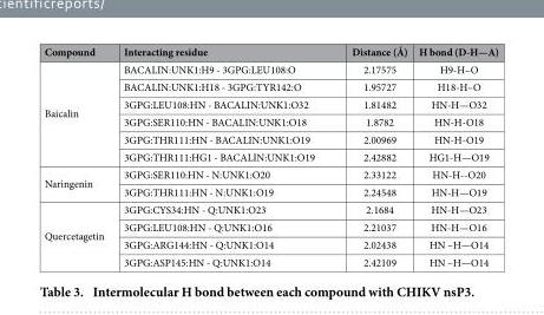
<table><thead><tr><td>Compound</td><td>Interacting residue</td><td>Distance (Å)</td><td>H bond (D-H—A)</td></tr></thead><tbody><tr><td rowspan="6">Baicalin</td><td>BACALIN:UNK1:H9 - 3GPG:LEU108:O</td><td>2.17575</td><td>H9-H–O</td></tr><tr><td>BACALIN:UNK1:H18 - 3GPG:TYR142:O</td><td>1.95727</td><td>H18-H–O</td></tr><tr><td>3GPG:LEU108:HN - BACALIN:UNK1:O32</td><td>1.81482</td><td>HN-H—O32</td></tr><tr><td>3GPG:SER110:HN - BACALIN:UNK1:O18</td><td>1.8782</td><td>HN-H-O18</td></tr><tr><td>3GPG:THR111:HN - BACALIN:UNK1:O19</td><td>2.00969</td><td>HN-H-O19</td></tr><tr><td>3GPG:THR111:HG1 - BACALIN:UNK1:O19</td><td>2.42882</td><td>HG1-H—O19</td></tr><tr><td rowspan="2">Naringenin</td><td>3GPG:SER110:HN - N:UNK1:O20</td><td>2.33122</td><td>HN-H--O20</td></tr><tr><td>3GPG:THR111:HN - N:UNK1:O19</td><td>2.24548</td><td>HN-H—O19</td></tr><tr><td rowspan="4">Quercetagetin</td><td>3GPG:CYS34:HN - Q:UNK1:O23</td><td>2.1684</td><td>HN-H—O23</td></tr><tr><td>3GPG:LEU108:HN - Q:UNK1:O16</td><td>2.21037</td><td>HN-H—O16</td></tr><tr><td>3GPG:ARG144:HN - Q:UNK1:O14</td><td>2.02438</td><td>HN –H—O14</td></tr><tr><td>3GPG:ASP145:HN - Q:UNK1:O14</td><td>2.42109</td><td>HN –H—O14</td></tr></tbody></table>